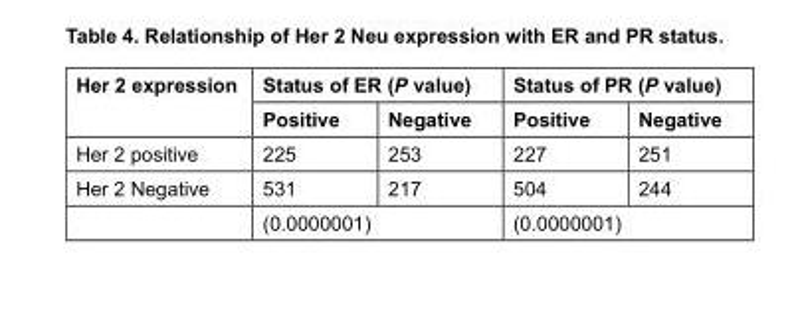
<table><thead><tr><td rowspan="2">Her 2 expression</td><td colspan="2">Status of ER (P value)</td><td colspan="2">Status of PR (P value)</td></tr><tr><td>Positive</td><td>Negative</td><td>Positive</td><td>Negative</td></tr></thead><tbody><tr><td>Her 2 positive</td><td>225</td><td>253</td><td>227</td><td>251</td></tr><tr><td rowspan="2">Her 2 Negative</td><td>531</td><td>217</td><td>504</td><td>244</td></tr><tr><td colspan="2">(0.0000001)</td><td colspan="2">(0.0000001)</td></tr></tbody></table>